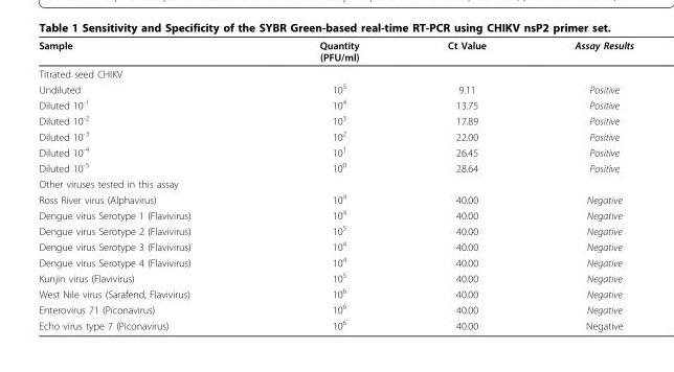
<table><thead><tr><td>Sample</td><td>Quantity (PFU/ml)</td><td>Ct Value</td><td>Assay Results</td></tr></thead><tbody><tr><td colspan="4">Titrated seed CHIKV</td></tr><tr><td>Undiluted</td><td>10<sup>5</sup></td><td>9.11</td><td>Positive</td></tr><tr><td>Diluted 10<sup>-1</sup></td><td>10<sup>4</sup></td><td>13.75</td><td>Positive</td></tr><tr><td>Diluted 10<sup>-2</sup></td><td>10<sup>3</sup></td><td>17.89</td><td>Positive</td></tr><tr><td>Diluted 10<sup>-3</sup></td><td>10<sup>2</sup></td><td>22.00</td><td>Positive</td></tr><tr><td>Diluted 10<sup>-4</sup></td><td>10<sup>1</sup></td><td>26.45</td><td>Positive</td></tr><tr><td>Diluted 10<sup>-5</sup></td><td>10<sup>0</sup></td><td>28.64</td><td>Positive</td></tr><tr><td colspan="4">Other viruses tested in this assay</td></tr><tr><td>Ross River virus (Alphavirus)</td><td>10<sup>4</sup></td><td>40.00</td><td>Negative</td></tr><tr><td>Dengue virus Serotype 1 (Flavivirus)</td><td>10<sup>4</sup></td><td>40.00</td><td>Negative</td></tr><tr><td>Dengue virus Serotype 2 (Flavivirus)</td><td>10<sup>5</sup></td><td>40.00</td><td>Negative</td></tr><tr><td>Dengue virus Serotype 3 (Flavivirus)</td><td>10<sup>4</sup></td><td>40.00</td><td>Negative</td></tr><tr><td>Dengue virus Serotype 4 (Flavivirus)</td><td>10<sup>4</sup></td><td>40.00</td><td>Negative</td></tr><tr><td>Kunjin virus (Flavivirus)</td><td>10<sup>5</sup></td><td>40.00</td><td>Negative</td></tr><tr><td>West Nile virus (Sarafend, Flavivirus)</td><td>10<sup>6</sup></td><td>40.00</td><td>Negative</td></tr><tr><td>Enterovirus 71 (Piconavirus)</td><td>10<sup>6</sup></td><td>40.00</td><td>Negative</td></tr><tr><td>Echo virus type 7 (Piconavirus)</td><td>10<sup>6</sup></td><td>40.00</td><td>Negative</td></tr></tbody></table>